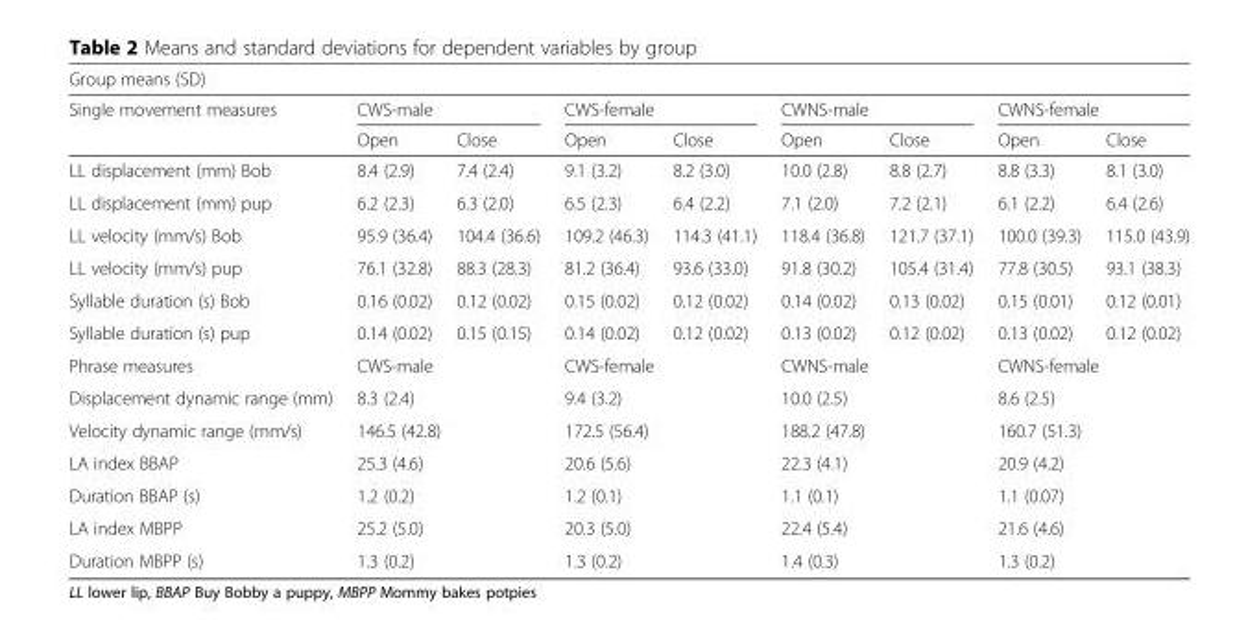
<table><thead><tr><td colspan="9">Group means (SD)</td></tr><tr><td rowspan="2">Single movement measures</td><td colspan="2">CWS-male</td><td colspan="2">CWS-female</td><td colspan="2">CWNS-male</td><td colspan="2">CWNS-female</td></tr><tr><td>Open</td><td>Close</td><td>Open</td><td>Close</td><td>Open</td><td>Close</td><td>Open</td><td>Close</td></tr></thead><tbody><tr><td>LL displacement (mm) Bob</td><td>8.4 (2.9)</td><td>7.4 (2.4)</td><td>9.1 (3.2)</td><td>8.2 (3.0)</td><td>10.0 (2.8)</td><td>8.8 (2.7)</td><td>8.8 (3.3)</td><td>8.1 (3.0)</td></tr><tr><td>LL displacement (mm) pup</td><td>6.2 (2.3)</td><td>6.3 (2.0)</td><td>6.5 (2.3)</td><td>6.4 (2.2)</td><td>7.1 (2.0)</td><td>7.2 (2.1)</td><td>6.1 (2.2)</td><td>6.4 (2.6)</td></tr><tr><td>LL velocity (mm/s) Bob</td><td>95.9 (36.4)</td><td>104.4 (36.6)</td><td>109.2 (46.3)</td><td>114.3 (41.1)</td><td>118.4 (36.8)</td><td>121.7 (37.1)</td><td>100.0 (39.3)</td><td>115.0 (43.9)</td></tr><tr><td>LL velocity (mm/s) pup</td><td>76.1 (32.8)</td><td>88.3 (28.3)</td><td>81.2 (36.4)</td><td>93.6 (33.0)</td><td>91.8 (30.2)</td><td>105.4 (31.4)</td><td>77.8 (30.5)</td><td>93.1 (38.3)</td></tr><tr><td>Syllable duration (s) Bob</td><td>0.16 (0.02)</td><td>0.12 (0.02)</td><td>0.15 (0.02)</td><td>0.12 (0.02)</td><td>0.14 (0.02)</td><td>0.13 (0.02)</td><td>0.15 (0.01)</td><td>0.12 (0.01)</td></tr><tr><td>Syllable duration (s) pup</td><td>0.14 (0.02)</td><td>0.15 (0.15)</td><td>0.14 (0.02)</td><td>0.12 (0.02)</td><td>0.13 (0.02)</td><td>0.12 (0.02)</td><td>0.13 (0.02)</td><td>0.12 (0.02)</td></tr><tr><td>Phrase measures</td><td colspan="2">CWS-male</td><td colspan="2">CWS-female</td><td colspan="2">CWNS-male</td><td colspan="2">CWNS-female</td></tr><tr><td>Displacement dynamic range (mm)</td><td colspan="2">8.3 (2.4)</td><td colspan="2">9.4 (3.2)</td><td colspan="2">10.0 (2.5)</td><td colspan="2">8.6 (2.5)</td></tr><tr><td>Velocity dynamic range (mm/s)</td><td colspan="2">146.5 (42.8)</td><td colspan="2">172.5 (56.4)</td><td colspan="2">188.2 (47.8)</td><td colspan="2">160.7 (51.3)</td></tr><tr><td>LA index BBAP</td><td colspan="2">25.3 (4.6)</td><td colspan="2">20.6 (5.6)</td><td colspan="2">22.3 (4.1)</td><td colspan="2">20.9 (4.2)</td></tr><tr><td>Duration BBAP (s)</td><td colspan="2">1.2 (0.2)</td><td colspan="2">1.2 (0.1)</td><td colspan="2">1.1 (0.1)</td><td colspan="2">1.1 (0.07)</td></tr><tr><td>LA index MBPP</td><td colspan="2">25.2 (5.0)</td><td colspan="2">20.3 (5.0)</td><td colspan="2">22.4 (5.4)</td><td colspan="2">21.6 (4.6)</td></tr><tr><td>Duration MBPP (s)</td><td colspan="2">1.3 (0.2)</td><td colspan="2">1.3 (0.2)</td><td colspan="2">1.4 (0.3)</td><td colspan="2">1.3 (0.2)</td></tr></tbody></table>